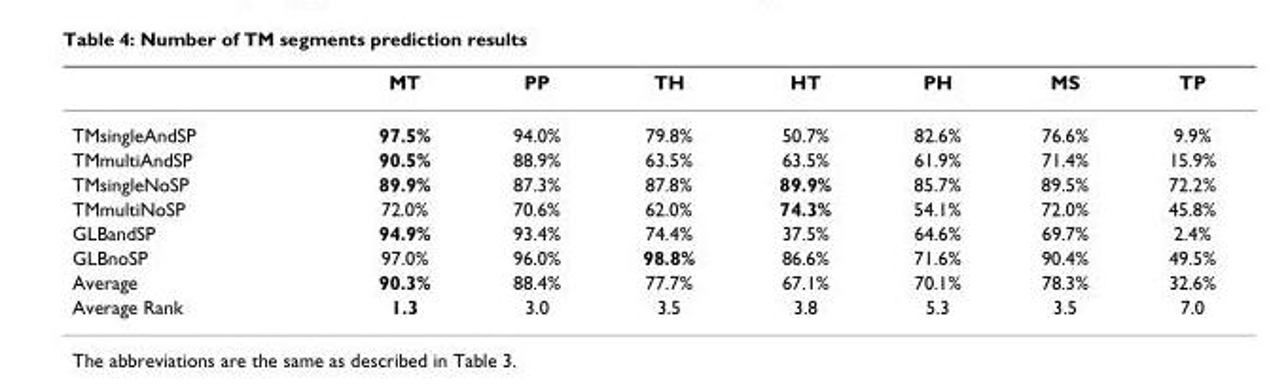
<table><thead><tr><td></td><td>MT</td><td>PP</td><td>TH</td><td>HT</td><td>PH</td><td>MS</td><td>TP</td></tr></thead><tbody><tr><td>TMsingleAndSP</td><td>97.5%</td><td>94.0%</td><td>79.8%</td><td>50.7%</td><td>82.6%</td><td>76.6%</td><td>9.9%</td></tr><tr><td>TMmultiAndSP</td><td>90.5%</td><td>88.9%</td><td>63.5%</td><td>63.5%</td><td>61.9%</td><td>71.4%</td><td>15.9%</td></tr><tr><td>TMsingleNoSP</td><td>89.9%</td><td>87.3%</td><td>87.8%</td><td>89.9%</td><td>85.7%</td><td>89.5%</td><td>72.2%</td></tr><tr><td>TMmultiNoSP</td><td>72.0%</td><td>70.6%</td><td>62.0%</td><td>74.3%</td><td>54.1%</td><td>72.0%</td><td>45.8%</td></tr><tr><td>GLBandSP</td><td>94.9%</td><td>93.4%</td><td>74.4%</td><td>37.5%</td><td>64.6%</td><td>69.7%</td><td>2.4%</td></tr><tr><td>GLBnoSP</td><td>97.0%</td><td>96.0%</td><td>98.8%</td><td>86.6%</td><td>71.6%</td><td>90.4%</td><td>49.5%</td></tr><tr><td>Average</td><td>90.3%</td><td>88.4%</td><td>77.7%</td><td>67.1%</td><td>70.1%</td><td>78.3%</td><td>32.6%</td></tr><tr><td>Average Rank</td><td>1.3</td><td>3.0</td><td>3.5</td><td>3.8</td><td>5.3</td><td>3.5</td><td>7.0</td></tr></tbody></table>